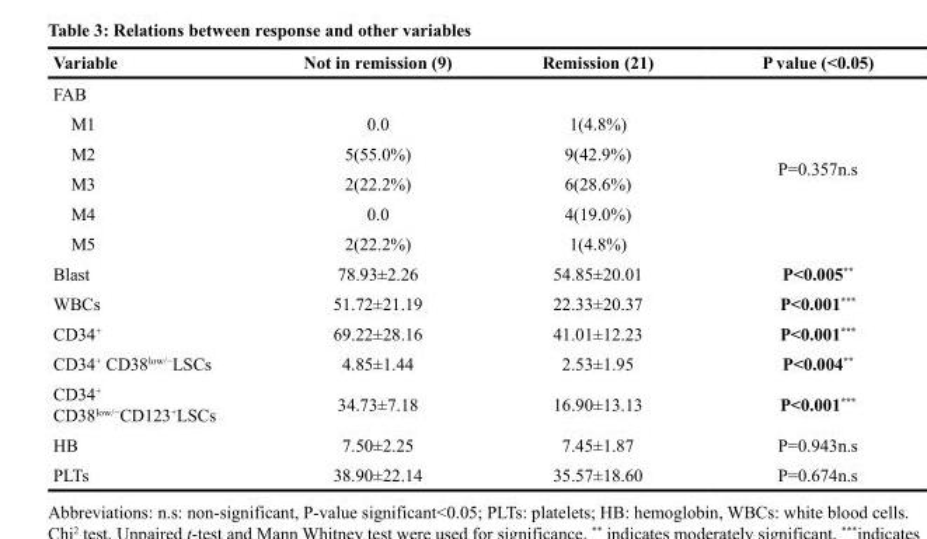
<table><thead><tr><td>Variable</td><td>Not in remission (9)</td><td>Remission (21)</td><td>P value (&lt;0.05)</td></tr></thead><tbody><tr><td colspan="3">FAB</td><td rowspan="6">P=0.357n.s</td></tr><tr><td>M1</td><td>0.0</td><td>1(4.8%)</td></tr><tr><td>M2</td><td>5(55.0%)</td><td>9(42.9%)</td></tr><tr><td>M3</td><td>2(22.2%)</td><td>6(28.6%)</td></tr><tr><td>M4</td><td>0.0</td><td>4(19.0%)</td></tr><tr><td>M5</td><td>2(22.2%)</td><td>1(4.8%)</td></tr><tr><td>Blast</td><td>78.93±2.26</td><td>54.85±20.01</td><td>P&lt;0.005**</td></tr><tr><td>WBCs</td><td>51.72±21.19</td><td>22.33±20.37</td><td>P&lt;0.001***</td></tr><tr><td>CD34<sup>+</sup></td><td>69.22±28.16</td><td>41.01±12.23</td><td>P&lt;0.001***</td></tr><tr><td>CD34<sup>+</sup> CD38<sup>low/−</sup>LSCs</td><td>4.85±1.44</td><td>2.53±1.95</td><td>P&lt;0.004**</td></tr><tr><td>CD34<sup>+</sup> CD38<sup>low/−</sup>CD123<sup>+</sup>LSCs</td><td>34.73±7.18</td><td>16.90±13.13</td><td>P&lt;0.001***</td></tr><tr><td>HB</td><td>7.50±2.25</td><td>7.45±1.87</td><td>P=0.943n.s</td></tr><tr><td>PLTs</td><td>38.90±22.14</td><td>35.57±18.60</td><td>P=0.674n.s</td></tr></tbody></table>